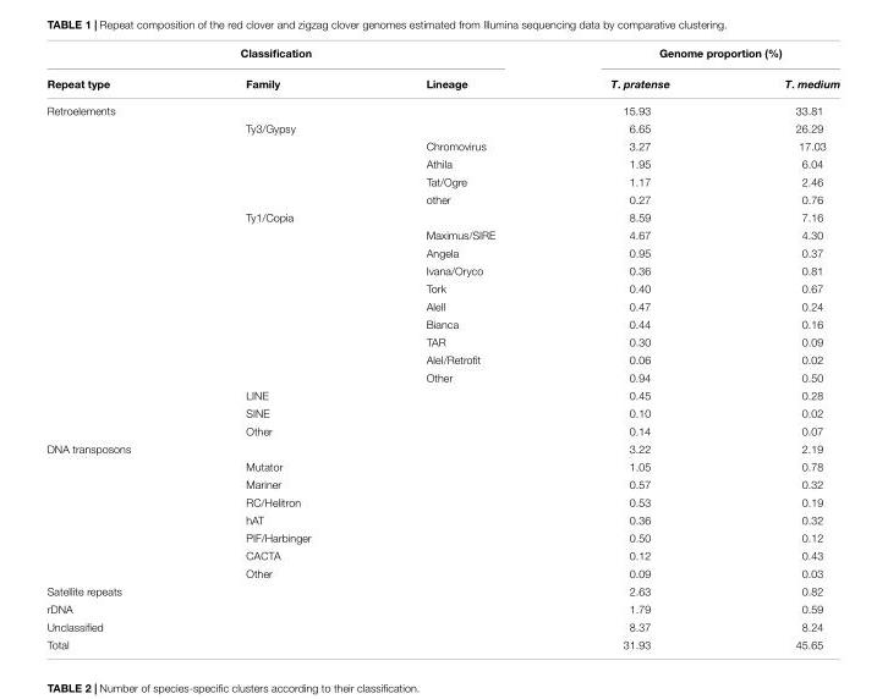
<table><thead><tr><td colspan="3">Classification</td><td colspan="2">Genome proportion (%)</td></tr><tr><td>Repeat type</td><td>Family</td><td>Lineage</td><td>T. pratense</td><td>T. medium</td></tr></thead><tbody><tr><td rowspan="19">Retroelements</td><td></td><td></td><td>15.93</td><td>33.81</td></tr><tr><td>Ty3/Gypsy</td><td></td><td>6.65</td><td>26.29</td></tr><tr><td></td><td>Chromovirus</td><td>3.27</td><td>17.03</td></tr><tr><td></td><td>Athila</td><td>1.95</td><td>6.04</td></tr><tr><td></td><td>Tat/Ogre</td><td>1.17</td><td>2.46</td></tr><tr><td></td><td>other</td><td>0.27</td><td>0.76</td></tr><tr><td>Ty1/Copia</td><td></td><td>8.59</td><td>7.16</td></tr><tr><td></td><td>Maximus/SIRE</td><td>4.67</td><td>4.30</td></tr><tr><td></td><td>Angela</td><td>0.95</td><td>0.37</td></tr><tr><td></td><td>Ivana/Oryco</td><td>0.36</td><td>0.81</td></tr><tr><td></td><td>Tork</td><td>0.40</td><td>0.67</td></tr><tr><td></td><td>AleII</td><td>0.47</td><td>0.24</td></tr><tr><td></td><td>Bianca</td><td>0.44</td><td>0.16</td></tr><tr><td></td><td>TAR</td><td>0.30</td><td>0.09</td></tr><tr><td></td><td>AleI/Retrofit</td><td>0.06</td><td>0.02</td></tr><tr><td></td><td>Other</td><td>0.94</td><td>0.50</td></tr><tr><td>LINE</td><td></td><td>0.45</td><td>0.28</td></tr><tr><td>SINE</td><td></td><td>0.10</td><td>0.02</td></tr><tr><td>Other</td><td></td><td>0.14</td><td>0.07</td></tr><tr><td rowspan="8">DNA transposons</td><td></td><td></td><td>3.22</td><td>2.19</td></tr><tr><td>Mutator</td><td></td><td>1.05</td><td>0.78</td></tr><tr><td>Mariner</td><td></td><td>0.57</td><td>0.32</td></tr><tr><td>RC/Helitron</td><td></td><td>0.53</td><td>0.19</td></tr><tr><td>hAT</td><td></td><td>0.36</td><td>0.32</td></tr><tr><td>PIF/Harbinger</td><td></td><td>0.50</td><td>0.12</td></tr><tr><td>CACTA</td><td></td><td>0.12</td><td>0.43</td></tr><tr><td>Other</td><td></td><td>0.09</td><td>0.03</td></tr><tr><td>Satellite repeats</td><td></td><td></td><td>2.63</td><td>0.82</td></tr><tr><td>rDNA</td><td></td><td></td><td>1.79</td><td>0.59</td></tr><tr><td>Unclassified</td><td></td><td></td><td>8.37</td><td>8.24</td></tr><tr><td>Total</td><td></td><td></td><td>31.93</td><td>45.65</td></tr></tbody></table>